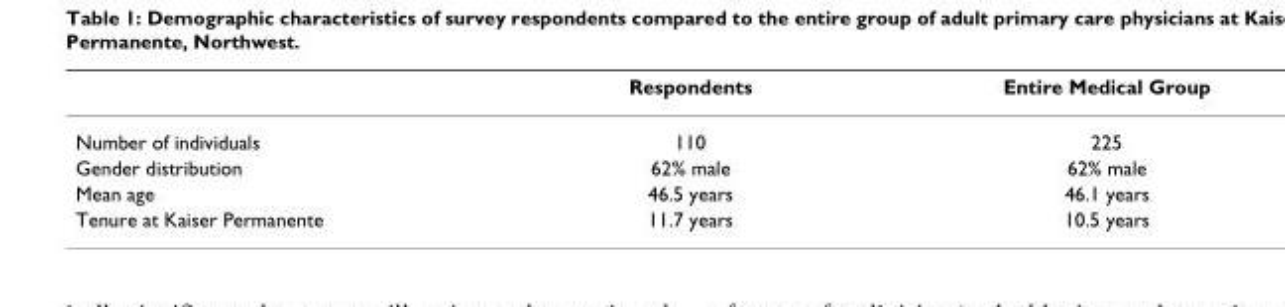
<table><thead><tr><td></td><td>Respondents</td><td>Entire Medical Group</td></tr></thead><tbody><tr><td>Number of individuals</td><td>110</td><td>225</td></tr><tr><td>Gender distribution</td><td>62% male</td><td>62% male</td></tr><tr><td>Mean age</td><td>46.5 years</td><td>46.1 years</td></tr><tr><td>Tenure at Kaiser Permanente</td><td>11.7 years</td><td>10.5 years</td></tr></tbody></table>